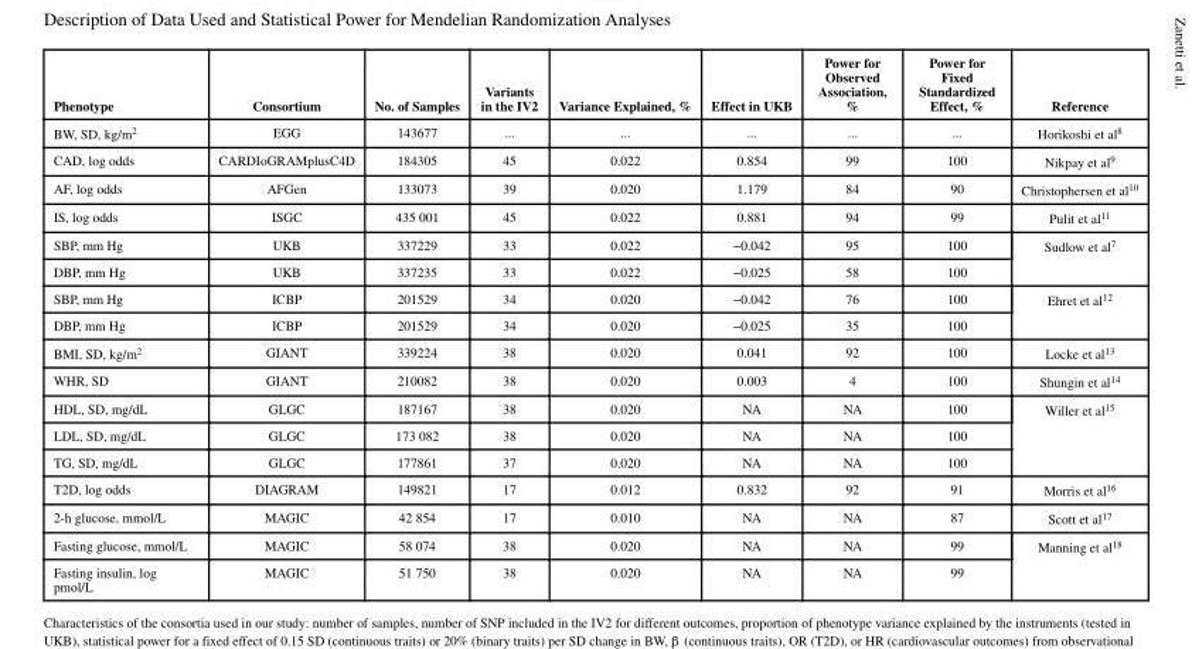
<table><thead><tr><td>Phenotype</td><td>Consortium</td><td>No. of Samples</td><td>Variants in the IV2</td><td>Variance Explained, %</td><td>Effect in UKB</td><td>Power for Observed Association, %</td><td>Power for Fixed Standardized Effect, %</td><td>Reference</td></tr></thead><tbody><tr><td>BW, SD, kg/m2</td><td>EGG</td><td>143677</td><td>...</td><td>...</td><td>...</td><td>...</td><td>...</td><td>Horikoshi et al8</td></tr><tr><td>CAD, log odds</td><td>CARDIoGRAMplusC4D</td><td>184305</td><td>45</td><td>0.022</td><td>0.854</td><td>99</td><td>100</td><td>Nikpay et al9</td></tr><tr><td>AF, log odds</td><td>AFGen</td><td>133073</td><td>39</td><td>0.020</td><td>1.179</td><td>84</td><td>90</td><td>Christophersen et al10</td></tr><tr><td>IS, log odds</td><td>ISGC</td><td>435 001</td><td>45</td><td>0.022</td><td>0.881</td><td>94</td><td>99</td><td>Pulit et al11</td></tr><tr><td>SBP, mm Hg</td><td>UKB</td><td>337229</td><td>33</td><td>0.022</td><td>−0.042</td><td>95</td><td>100</td><td rowspan="2">Sudlow et al7</td></tr><tr><td>DBP, mm Hg</td><td>UKB</td><td>337235</td><td>33</td><td>0.022</td><td>−0.025</td><td>58</td><td>100</td></tr><tr><td>SBP, mm Hg</td><td>ICBP</td><td>201529</td><td>34</td><td>0.020</td><td>−0.042</td><td>76</td><td>100</td><td rowspan="2">Ehret et al12</td></tr><tr><td>DBP, mm Hg</td><td>ICBP</td><td>201529</td><td>34</td><td>0.020</td><td>−0.025</td><td>35</td><td>100</td></tr><tr><td>BMI, SD, kg/m2</td><td>GIANT</td><td>339224</td><td>38</td><td>0.020</td><td>0.041</td><td>92</td><td>100</td><td>Locke et al13</td></tr><tr><td>WHR, SD</td><td>GIANT</td><td>210082</td><td>38</td><td>0.020</td><td>0.003</td><td>4</td><td>100</td><td>Shungin et al14</td></tr><tr><td>HDL, SD, mg/dL</td><td>GLGC</td><td>187167</td><td>38</td><td>0.020</td><td>NA</td><td>NA</td><td>100</td><td rowspan="3">Willer et al15</td></tr><tr><td>LDL, SD, mg/dL</td><td>GLGC</td><td>173 082</td><td>38</td><td>0.020</td><td>NA</td><td>NA</td><td>100</td></tr><tr><td>TG, SD, mg/dL</td><td>GLGC</td><td>177861</td><td>37</td><td>0.020</td><td>NA</td><td>NA</td><td>100</td></tr><tr><td>T2D, log odds</td><td>DIAGRAM</td><td>149821</td><td>17</td><td>0.012</td><td>0.832</td><td>92</td><td>91</td><td>Morris et al16</td></tr><tr><td>2-h glucose, mmol/L</td><td>MAGIC</td><td>42 854</td><td>17</td><td>0.010</td><td>NA</td><td>NA</td><td>87</td><td>Scott et al17</td></tr><tr><td>Fasting glucose, mmol/L</td><td>MAGIC</td><td>58 074</td><td>38</td><td>0.020</td><td>NA</td><td>NA</td><td>99</td><td rowspan="2">Manning et al18</td></tr><tr><td>Fasting insulin, log pmol/L</td><td>MAGIC</td><td>51 750</td><td>38</td><td>0.020</td><td>NA</td><td>NA</td><td>99</td></tr></tbody></table>